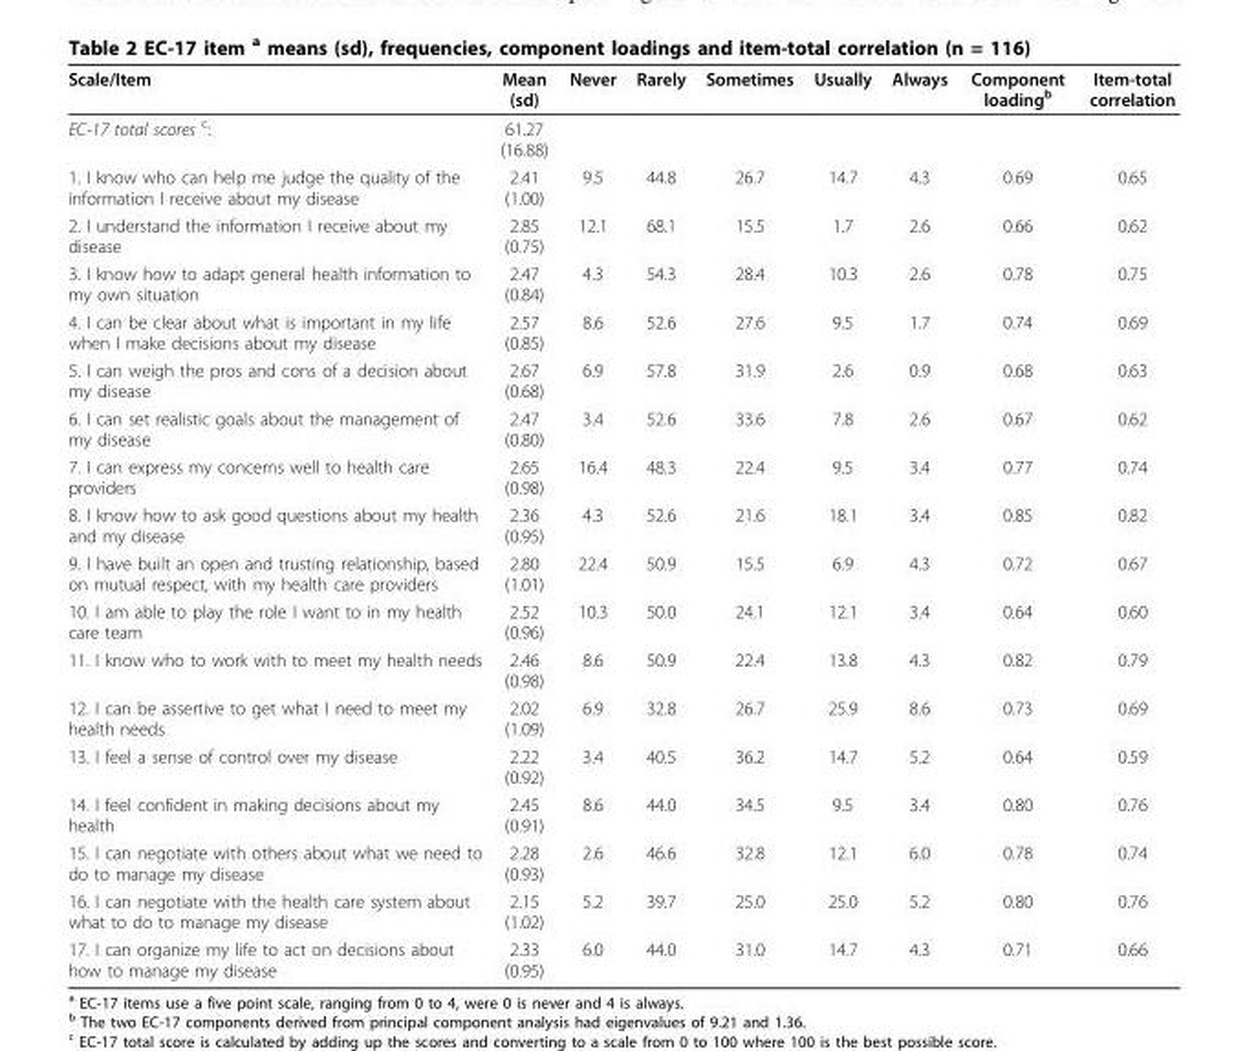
<table><thead><tr><td>Scale/Item</td><td>Mean (sd)</td><td>Never</td><td>Rarely</td><td>Sometimes</td><td>Usually</td><td>Always</td><td>Component loading<sup>b</sup></td><td>Item-total correlation</td></tr></thead><tbody><tr><td>EC-17 total scores <sup>c</sup>:</td><td>61.27 (16.88)</td><td></td><td></td><td></td><td></td><td></td><td></td><td></td></tr><tr><td>1. I know who can help me judge the quality of the information I receive about my disease</td><td>2.41 (1.00)</td><td>9.5</td><td>44.8</td><td>26.7</td><td>14.7</td><td>4.3</td><td>0.69</td><td>0.65</td></tr><tr><td>2. I understand the information I receive about my disease</td><td>2.85 (0.75)</td><td>12.1</td><td>68.1</td><td>15.5</td><td>1.7</td><td>2.6</td><td>0.66</td><td>0.62</td></tr><tr><td>3. I know how to adapt general health information to my own situation</td><td>2.47 (0.84)</td><td>4.3</td><td>54.3</td><td>28.4</td><td>10.3</td><td>2.6</td><td>0.78</td><td>0.75</td></tr><tr><td>4. I can be clear about what is important in my life when I make decisions about my disease</td><td>2.57 (0.85)</td><td>8.6</td><td>52.6</td><td>27.6</td><td>9.5</td><td>1.7</td><td>0.74</td><td>0.69</td></tr><tr><td>5. I can weigh the pros and cons of a decision about my disease</td><td>2.67 (0.68)</td><td>6.9</td><td>57.8</td><td>31.9</td><td>2.6</td><td>0.9</td><td>0.68</td><td>0.63</td></tr><tr><td>6. I can set realistic goals about the management of my disease</td><td>2.47 (0.80)</td><td>3.4</td><td>52.6</td><td>33.6</td><td>7.8</td><td>2.6</td><td>0.67</td><td>0.62</td></tr><tr><td>7. I can express my concerns well to health care providers</td><td>2.65 (0.98)</td><td>16.4</td><td>48.3</td><td>22.4</td><td>9.5</td><td>3.4</td><td>0.77</td><td>0.74</td></tr><tr><td>8. I know how to ask good questions about my health and my disease</td><td>2.36 (0.95)</td><td>4.3</td><td>52.6</td><td>21.6</td><td>18.1</td><td>3.4</td><td>0.85</td><td>0.82</td></tr><tr><td>9. I have built an open and trusting relationship, based on mutual respect, with my health care providers</td><td>2.80 (1.01)</td><td>22.4</td><td>50.9</td><td>15.5</td><td>6.9</td><td>4.3</td><td>0.72</td><td>0.67</td></tr><tr><td>10. I am able to play the role I want to in my health care team</td><td>2.52 (0.96)</td><td>10.3</td><td>50.0</td><td>24.1</td><td>12.1</td><td>3.4</td><td>0.64</td><td>0.60</td></tr><tr><td>11. I know who to work with to meet my health needs</td><td>2.46 (0.98)</td><td>8.6</td><td>50.9</td><td>22.4</td><td>13.8</td><td>4.3</td><td>0.82</td><td>0.79</td></tr><tr><td>12. I can be assertive to get what I need to meet my health needs</td><td>2.02 (1.09)</td><td>6.9</td><td>32.8</td><td>26.7</td><td>25.9</td><td>8.6</td><td>0.73</td><td>0.69</td></tr><tr><td>13. I feel a sense of control over my disease</td><td>2.22 (0.92)</td><td>3.4</td><td>40.5</td><td>36.2</td><td>14.7</td><td>5.2</td><td>0.64</td><td>0.59</td></tr><tr><td>14. I feel confident in making decisions about my health</td><td>2.45 (0.91)</td><td>8.6</td><td>44.0</td><td>34.5</td><td>9.5</td><td>3.4</td><td>0.80</td><td>0.76</td></tr><tr><td>15. I can negotiate with others about what we need to do to manage my disease</td><td>2.28 (0.93)</td><td>2.6</td><td>46.6</td><td>32.8</td><td>12.1</td><td>6.0</td><td>0.78</td><td>0.74</td></tr><tr><td>16. I can negotiate with the health care system about what to do to manage my disease</td><td>2.15 (1.02)</td><td>5.2</td><td>39.7</td><td>25.0</td><td>25.0</td><td>5.2</td><td>0.80</td><td>0.76</td></tr><tr><td>17. I can organize my life to act on decisions about how to manage my disease</td><td>2.33 (0.95)</td><td>6.0</td><td>44.0</td><td>31.0</td><td>14.7</td><td>4.3</td><td>0.71</td><td>0.66</td></tr></tbody></table>